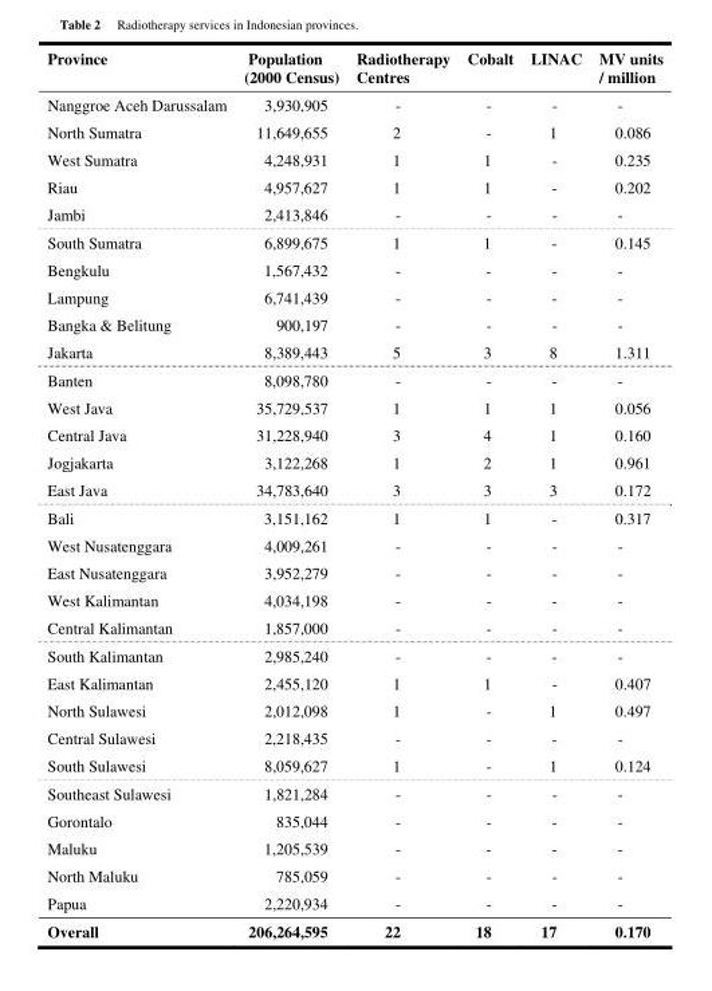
<table><thead><tr><td>Province</td><td>Population (2000 Census)</td><td>Radiotherapy Centres</td><td>Cobalt</td><td>LINAC</td><td>MV units / million</td></tr></thead><tbody><tr><td>Nanggroe Aceh Darussalam</td><td>3,930,905</td><td>-</td><td>-</td><td>-</td><td>-</td></tr><tr><td>North Sumatra</td><td>11,649,655</td><td>2</td><td>-</td><td>1</td><td>0.086</td></tr><tr><td>West Sumatra</td><td>4,248,931</td><td>1</td><td>1</td><td>-</td><td>0.235</td></tr><tr><td>Riau</td><td>4,957,627</td><td>1</td><td>1</td><td>-</td><td>0.202</td></tr><tr><td>Jambi</td><td>2,413,846</td><td>-</td><td>-</td><td>-</td><td>-</td></tr><tr><td>South Sumatra</td><td>6,899,675</td><td>1</td><td>1</td><td>-</td><td>0.145</td></tr><tr><td>Bengkulu</td><td>1,567,432</td><td>-</td><td>-</td><td>-</td><td>-</td></tr><tr><td>Lampung</td><td>6,741,439</td><td>-</td><td>-</td><td>-</td><td>-</td></tr><tr><td>Bangka &amp; Belitung</td><td>900,197</td><td>-</td><td>-</td><td>-</td><td>-</td></tr><tr><td>Jakarta</td><td>8,389,443</td><td>5</td><td>3</td><td>8</td><td>1.311</td></tr><tr><td>Banten</td><td>8,098,780</td><td>-</td><td>-</td><td>-</td><td>-</td></tr><tr><td>West Java</td><td>35,729,537</td><td>1</td><td>1</td><td>1</td><td>0.056</td></tr><tr><td>Central Java</td><td>31,228,940</td><td>3</td><td>4</td><td>1</td><td>0.160</td></tr><tr><td>Jogjakarta</td><td>3,122,268</td><td>1</td><td>2</td><td>1</td><td>0.961</td></tr><tr><td>East Java</td><td>34,783,640</td><td>3</td><td>3</td><td>3</td><td>0.172</td></tr><tr><td>Bali</td><td>3,151,162</td><td>1</td><td>1</td><td>-</td><td>0.317</td></tr><tr><td>West Nusatenggara</td><td>4,009,261</td><td>-</td><td>-</td><td>-</td><td>-</td></tr><tr><td>East Nusatenggara</td><td>3,952,279</td><td>-</td><td>-</td><td>-</td><td>-</td></tr><tr><td>West Kalimantan</td><td>4,034,198</td><td>-</td><td>-</td><td>-</td><td>-</td></tr><tr><td>Central Kalimantan</td><td>1,857,000</td><td>-</td><td>-</td><td>-</td><td>-</td></tr><tr><td>South Kalimantan</td><td>2,985,240</td><td>-</td><td>-</td><td>-</td><td>-</td></tr><tr><td>East Kalimantan</td><td>2,455,120</td><td>1</td><td>1</td><td>-</td><td>0.407</td></tr><tr><td>North Sulawesi</td><td>2,012,098</td><td>1</td><td>-</td><td>1</td><td>0.497</td></tr><tr><td>Central Sulawesi</td><td>2,218,435</td><td>-</td><td>-</td><td>-</td><td>-</td></tr><tr><td>South Sulawesi</td><td>8,059,627</td><td>1</td><td>-</td><td>1</td><td>0.124</td></tr><tr><td>Southeast Sulawesi</td><td>1,821,284</td><td>-</td><td>-</td><td>-</td><td>-</td></tr><tr><td>Gorontalo</td><td>835,044</td><td>-</td><td>-</td><td>-</td><td>-</td></tr><tr><td>Maluku</td><td>1,205,539</td><td>-</td><td>-</td><td>-</td><td>-</td></tr><tr><td>North Maluku</td><td>785,059</td><td>-</td><td>-</td><td>-</td><td>-</td></tr><tr><td>Papua</td><td>2,220,934</td><td>-</td><td>-</td><td>-</td><td>-</td></tr><tr><td>Overall</td><td>206,264,595</td><td>22</td><td>18</td><td>17</td><td>0.170</td></tr></tbody></table>